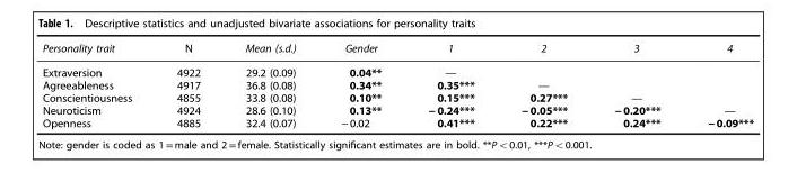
<table><thead><tr><td>Personality trait</td><td>N</td><td>Mean (s.d.)</td><td>Gender</td><td>1</td><td>2</td><td>3</td><td>4</td></tr></thead><tbody><tr><td>Extraversion</td><td>4922</td><td>29.2 (0.09)</td><td>0.04**</td><td>—</td><td></td><td></td><td></td></tr><tr><td>Agreeableness</td><td>4917</td><td>36.8 (0.08)</td><td>0.34**</td><td>0.35***</td><td>—</td><td></td><td></td></tr><tr><td>Conscientiousness</td><td>4855</td><td>33.8 (0.08)</td><td>0.10**</td><td>0.15***</td><td>0.27***</td><td>—</td><td></td></tr><tr><td>Neuroticism</td><td>4924</td><td>28.6 (0.10)</td><td>0.13**</td><td>− 0.24***</td><td>− 0.05***</td><td>− 0.20***</td><td>—</td></tr><tr><td>Openness</td><td>4885</td><td>32.4 (0.07)</td><td>− 0.02</td><td>0.41***</td><td>0.22***</td><td>0.24***</td><td>− 0.09***</td></tr></tbody></table>